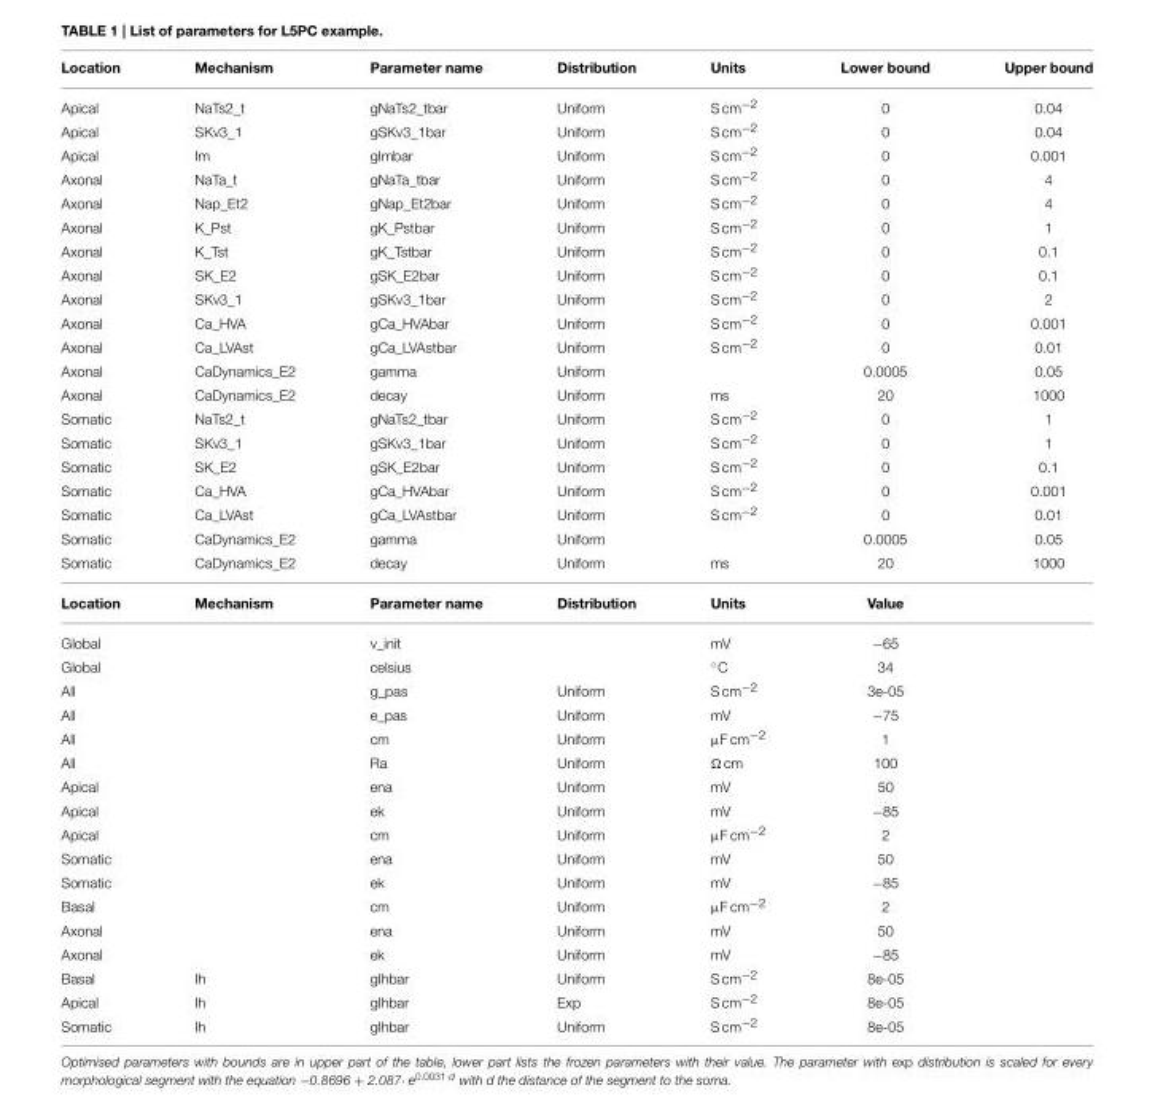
<table><thead><tr><td>Location</td><td>Mechanism</td><td>Parameter name</td><td>Distribution</td><td>Units</td><td>Lower bound</td><td>Upper bound</td></tr></thead><tbody><tr><td>Apical</td><td>NaTs2_t</td><td>gNaTs2_tbar</td><td>Uniform</td><td>S cm<sup>−2</sup></td><td>0</td><td>0.04</td></tr><tr><td>Apical</td><td>SKv3_1</td><td>gSKv3_1bar</td><td>Uniform</td><td>S cm<sup>−2</sup></td><td>0</td><td>0.04</td></tr><tr><td>Apical</td><td>Im</td><td>gImbar</td><td>Uniform</td><td>S cm<sup>−2</sup></td><td>0</td><td>0.001</td></tr><tr><td>Axonal</td><td>NaTa_t</td><td>gNaTa_tbar</td><td>Uniform</td><td>S cm<sup>−2</sup></td><td>0</td><td>4</td></tr><tr><td>Axonal</td><td>Nap_Et2</td><td>gNap_Et2bar</td><td>Uniform</td><td>S cm<sup>−2</sup></td><td>0</td><td>4</td></tr><tr><td>Axonal</td><td>K_Pst</td><td>gK_Pstbar</td><td>Uniform</td><td>S cm<sup>−2</sup></td><td>0</td><td>1</td></tr><tr><td>Axonal</td><td>K_Tst</td><td>gK_Tstbar</td><td>Uniform</td><td>S cm<sup>−2</sup></td><td>0</td><td>0.1</td></tr><tr><td>Axonal</td><td>SK_E2</td><td>gSK_E2bar</td><td>Uniform</td><td>S cm<sup>−2</sup></td><td>0</td><td>0.1</td></tr><tr><td>Axonal</td><td>SKv3_1</td><td>gSKv3_1bar</td><td>Uniform</td><td>S cm<sup>−2</sup></td><td>0</td><td>2</td></tr><tr><td>Axonal</td><td>Ca_HVA</td><td>gCa_HVAbar</td><td>Uniform</td><td>S cm<sup>−2</sup></td><td>0</td><td>0.001</td></tr><tr><td>Axonal</td><td>Ca_LVAst</td><td>gCa_LVAstbar</td><td>Uniform</td><td>S cm<sup>−2</sup></td><td>0</td><td>0.01</td></tr><tr><td>Axonal</td><td>CaDynamics_E2</td><td>gamma</td><td>Uniform</td><td></td><td>0.0005</td><td>0.05</td></tr><tr><td>Axonal</td><td>CaDynamics_E2</td><td>decay</td><td>Uniform</td><td>ms</td><td>20</td><td>1000</td></tr><tr><td>Somatic</td><td>NaTs2_t</td><td>gNaTs2_tbar</td><td>Uniform</td><td>S cm<sup>−2</sup></td><td>0</td><td>1</td></tr><tr><td>Somatic</td><td>SKv3_1</td><td>gSKv3_1bar</td><td>Uniform</td><td>S cm<sup>−2</sup></td><td>0</td><td>1</td></tr><tr><td>Somatic</td><td>SK_E2</td><td>gSK_E2bar</td><td>Uniform</td><td>S cm<sup>−2</sup></td><td>0</td><td>0.1</td></tr><tr><td>Somatic</td><td>Ca_HVA</td><td>gCa_HVAbar</td><td>Uniform</td><td>S cm<sup>−2</sup></td><td>0</td><td>0.001</td></tr><tr><td>Somatic</td><td>Ca_LVAst</td><td>gCa_LVAstbar</td><td>Uniform</td><td>S cm<sup>−2</sup></td><td>0</td><td>0.01</td></tr><tr><td>Somatic</td><td>CaDynamics_E2</td><td>gamma</td><td>Uniform</td><td></td><td>0.0005</td><td>0.05</td></tr><tr><td>Somatic</td><td>CaDynamics_E2</td><td>decay</td><td>Uniform</td><td>ms</td><td>20</td><td>1000</td></tr><tr><td>Location</td><td>Mechanism</td><td>Parameter name</td><td>Distribution</td><td>Units</td><td>Value</td><td></td></tr><tr><td>Global</td><td></td><td>v_init</td><td></td><td>mV</td><td>−65</td><td></td></tr><tr><td>Global</td><td></td><td>celsius</td><td></td><td>◦C</td><td>34</td><td></td></tr><tr><td>All</td><td></td><td>g_pas</td><td>Uniform</td><td>S cm<sup>−2</sup></td><td>3e-05</td><td></td></tr><tr><td>All</td><td></td><td>e_pas</td><td>Uniform</td><td>mV</td><td>−75</td><td></td></tr><tr><td>All</td><td></td><td>cm</td><td>Uniform</td><td>µF cm<sup>−2</sup></td><td>1</td><td></td></tr><tr><td>All</td><td></td><td>Ra</td><td>Uniform</td><td>Ω cm</td><td>100</td><td></td></tr><tr><td>Apical</td><td></td><td>ena</td><td>Uniform</td><td>mV</td><td>50</td><td></td></tr><tr><td>Apical</td><td></td><td>ek</td><td>Uniform</td><td>mV</td><td>−85</td><td></td></tr><tr><td>Apical</td><td></td><td>cm</td><td>Uniform</td><td>µF cm<sup>−2</sup></td><td>2</td><td></td></tr><tr><td>Somatic</td><td></td><td>ena</td><td>Uniform</td><td>mV</td><td>50</td><td></td></tr><tr><td>Somatic</td><td></td><td>ek</td><td>Uniform</td><td>mV</td><td>−85</td><td></td></tr><tr><td>Basal</td><td></td><td>cm</td><td>Uniform</td><td>µF cm<sup>−2</sup></td><td>2</td><td></td></tr><tr><td>Axonal</td><td></td><td>ena</td><td>Uniform</td><td>mV</td><td>50</td><td></td></tr><tr><td>Axonal</td><td></td><td>ek</td><td>Uniform</td><td>mV</td><td>−85</td><td></td></tr><tr><td>Basal</td><td>Ih</td><td>gIhbar</td><td>Uniform</td><td>S cm<sup>−2</sup></td><td>8e-05</td><td></td></tr><tr><td>Apical</td><td>Ih</td><td>gIhbar</td><td>Exp</td><td>S cm<sup>−2</sup></td><td>8e-05</td><td></td></tr><tr><td>Somatic</td><td>Ih</td><td>gIhbar</td><td>Uniform</td><td>S cm<sup>−2</sup></td><td>8e-05</td><td></td></tr></tbody></table>